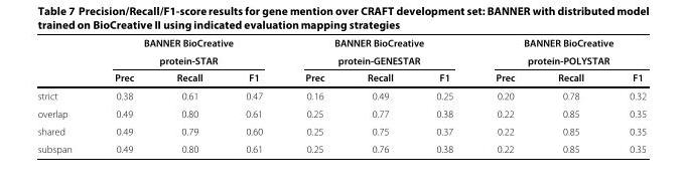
<table><thead><tr><td rowspan="2"></td><td colspan="3">BANNER BioCreative protein-STAR</td><td colspan="3">BANNER BioCreative protein-GENESTAR</td><td colspan="3">BANNER BioCreative protein-POLYSTAR</td></tr><tr><td>Prec</td><td>Recall</td><td>F1</td><td>Prec</td><td>Recall</td><td>F1</td><td>Prec</td><td>Recall</td><td>F1</td></tr></thead><tbody><tr><td>strict</td><td>0.38</td><td>0.61</td><td>0.47</td><td>0.16</td><td>0.49</td><td>0.25</td><td>0.20</td><td>0.78</td><td>0.32</td></tr><tr><td>overlap</td><td>0.49</td><td>0.80</td><td>0.61</td><td>0.25</td><td>0.77</td><td>0.38</td><td>0.22</td><td>0.85</td><td>0.35</td></tr><tr><td>shared</td><td>0.49</td><td>0.79</td><td>0.60</td><td>0.25</td><td>0.75</td><td>0.37</td><td>0.22</td><td>0.85</td><td>0.35</td></tr><tr><td>subspan</td><td>0.49</td><td>0.80</td><td>0.61</td><td>0.25</td><td>0.76</td><td>0.38</td><td>0.22</td><td>0.85</td><td>0.35</td></tr></tbody></table>